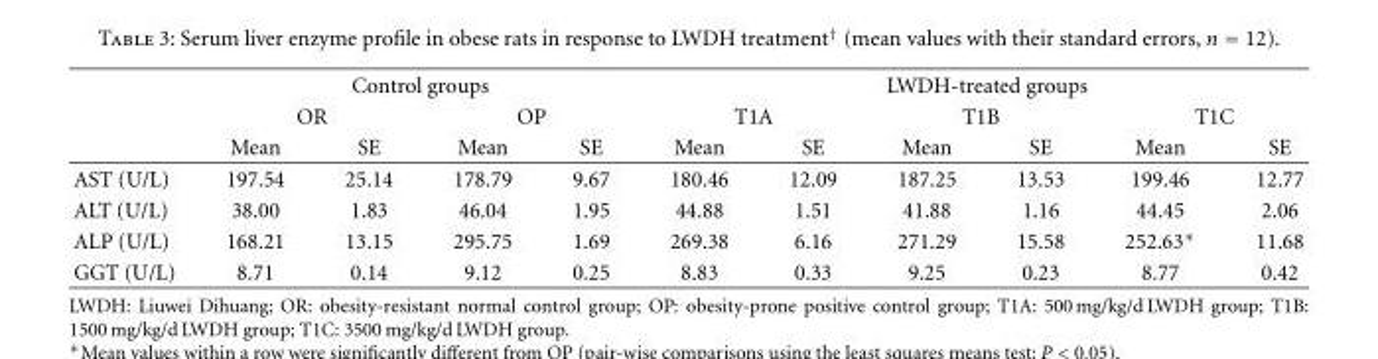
<table><thead><tr><td rowspan="3"></td><td colspan="4">Control groups</td><td colspan="6">LWDH-treated groups</td></tr><tr><td colspan="2">OR</td><td colspan="2">OP</td><td colspan="2">T1A</td><td colspan="2">T1B</td><td colspan="2">T1C</td></tr><tr><td>Mean</td><td>SE</td><td>Mean</td><td>SE</td><td>Mean</td><td>SE</td><td>Mean</td><td>SE</td><td>Mean</td><td>SE</td></tr></thead><tbody><tr><td>AST (U/L)</td><td>197.54</td><td>25.14</td><td>178.79</td><td>9.67</td><td>180.46</td><td>12.09</td><td>187.25</td><td>13.53</td><td>199.46</td><td>12.77</td></tr><tr><td>ALT (U/L)</td><td>38.00</td><td>1.83</td><td>46.04</td><td>1.95</td><td>44.88</td><td>1.51</td><td>41.88</td><td>1.16</td><td>44.45</td><td>2.06</td></tr><tr><td>ALP (U/L)</td><td>168.21</td><td>13.15</td><td>295.75</td><td>1.69</td><td>269.38</td><td>6.16</td><td>271.29</td><td>15.58</td><td>252.63∗</td><td>11.68</td></tr><tr><td>GGT (U/L)</td><td>8.71</td><td>0.14</td><td>9.12</td><td>0.25</td><td>8.83</td><td>0.33</td><td>9.25</td><td>0.23</td><td>8.77</td><td>0.42</td></tr></tbody></table>